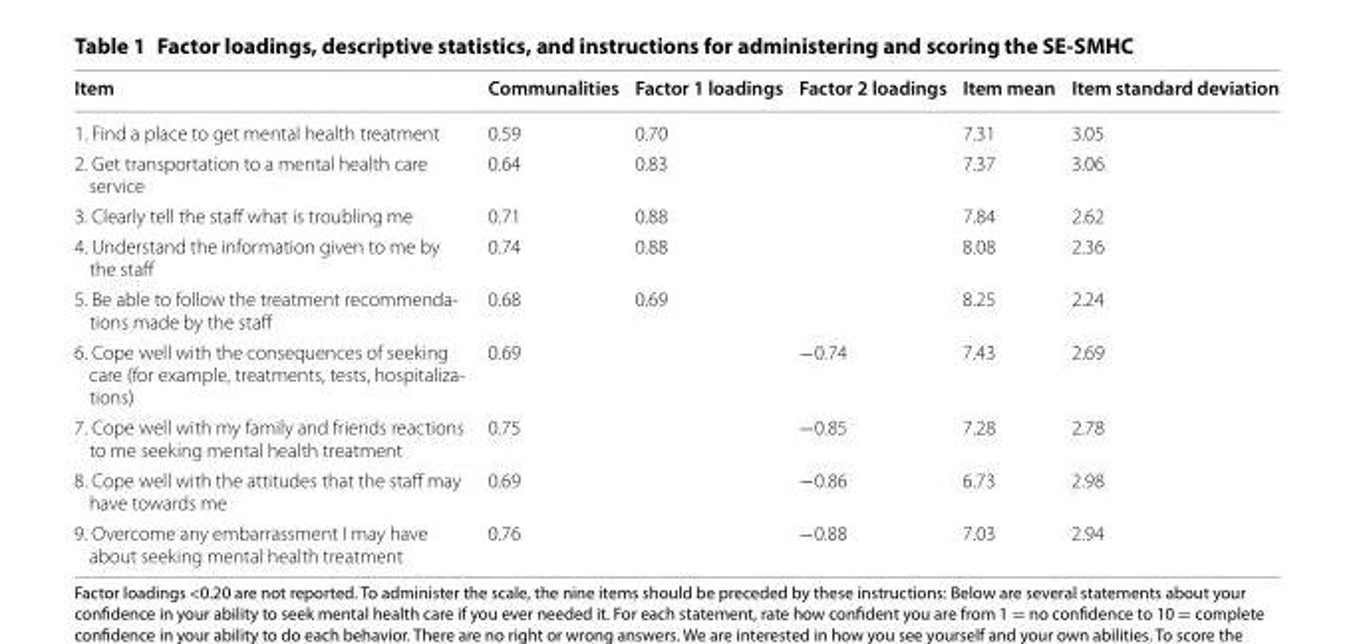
<table><thead><tr><td>Item</td><td>Communalities</td><td>Factor 1 loadings</td><td>Factor 2 loadings</td><td>Item mean</td><td>Item standard deviation</td></tr></thead><tbody><tr><td>1. Find a place to get mental health treatment</td><td>0.59</td><td>0.70</td><td></td><td>7.31</td><td>3.05</td></tr><tr><td>2. Get transportation to a mental health care service</td><td>0.64</td><td>0.83</td><td></td><td>7.37</td><td>3.06</td></tr><tr><td>3. Clearly tell the staff what is troubling me</td><td>0.71</td><td>0.88</td><td></td><td>7.84</td><td>2.62</td></tr><tr><td>4. Understand the information given to me by the staff</td><td>0.74</td><td>0.88</td><td></td><td>8.08</td><td>2.36</td></tr><tr><td>5. Be able to follow the treatment recommenda- tions made by the staff</td><td>0.68</td><td>0.69</td><td></td><td>8.25</td><td>2.24</td></tr><tr><td>6. Cope well with the consequences of seeking care (for example, treatments, tests, hospitaliza- tions)</td><td>0.69</td><td></td><td>−0.74</td><td>7.43</td><td>2.69</td></tr><tr><td>7. Cope well with my family and friends reactions to me seeking mental health treatment</td><td>0.75</td><td></td><td>−0.85</td><td>7.28</td><td>2.78</td></tr><tr><td>8. Cope well with the attitudes that the staff may have towards me</td><td>0.69</td><td></td><td>−0.86</td><td>6.73</td><td>2.98</td></tr><tr><td>9. Overcome any embarrassment I may have about seeking mental health treatment</td><td>0.76</td><td></td><td>−0.88</td><td>7.03</td><td>2.94</td></tr></tbody></table>